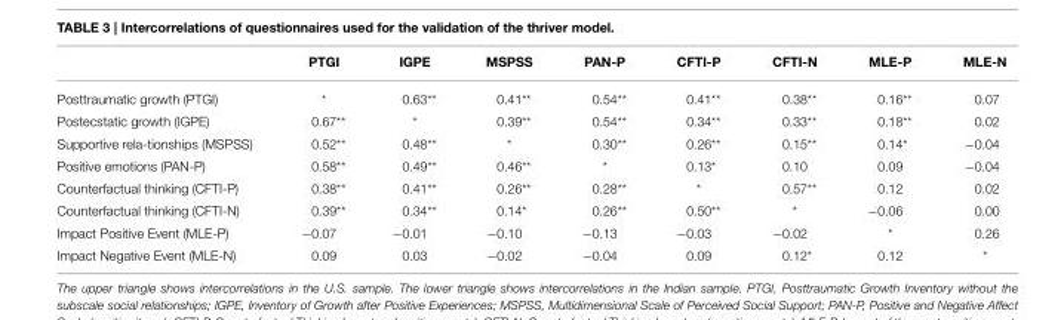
<table><thead><tr><td></td><td>PTGI</td><td>IGPE</td><td>MSPSS</td><td>PAN-P</td><td>CFTI-P</td><td>CFTI-N</td><td>MLE-P</td><td>MLE-N</td></tr></thead><tbody><tr><td>Posttraumatic growth (PTGI)</td><td>*</td><td>0.63**</td><td>0.41**</td><td>0.54**</td><td>0.41**</td><td>0.38**</td><td>0.16**</td><td>0.07</td></tr><tr><td>Postecstatic growth (IGPE)</td><td>0.67**</td><td>*</td><td>0.39**</td><td>0.54**</td><td>0.34**</td><td>0.33**</td><td>0.18**</td><td>0.02</td></tr><tr><td>Supportive rela-tionships (MSPSS)</td><td>0.52**</td><td>0.48**</td><td>*</td><td>0.30**</td><td>0.26**</td><td>0.15**</td><td>0.14*</td><td>−0.04</td></tr><tr><td>Positive emotions (PAN-P)</td><td>0.58**</td><td>0.49**</td><td>0.46**</td><td>*</td><td>0.13*</td><td>0.10</td><td>0.09</td><td>−0.04</td></tr><tr><td>Counterfactual thinking (CFTI-P)</td><td>0.38**</td><td>0.41**</td><td>0.26**</td><td>0.28**</td><td>*</td><td>0.57**</td><td>0.12</td><td>0.02</td></tr><tr><td>Counterfactual thinking (CFTI-N)</td><td>0.39**</td><td>0.34**</td><td>0.14*</td><td>0.26**</td><td>0.50**</td><td>*</td><td>−0.06</td><td>0.00</td></tr><tr><td>Impact Positive Event (MLE-P)</td><td>−0.07</td><td>−0.01</td><td>−0.10</td><td>−0.13</td><td>−0.03</td><td>−0.02</td><td>*</td><td>0.26</td></tr><tr><td>Impact Negative Event (MLE-N)</td><td>0.09</td><td>0.03</td><td>−0.02</td><td>−0.04</td><td>0.09</td><td>0.12*</td><td>0.12</td><td>*</td></tr></tbody></table>